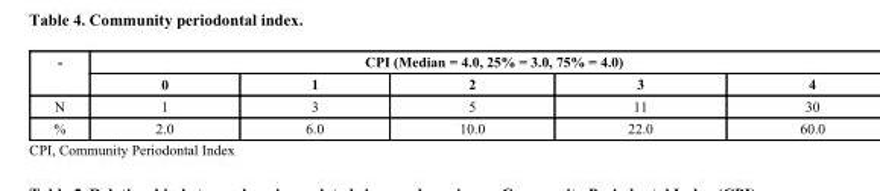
<table><thead><tr><td rowspan="2">-</td><td colspan="5">CPI (Median = 4.0, 25% = 3.0, 75% = 4.0)</td></tr><tr><td>0</td><td>1</td><td>2</td><td>3</td><td>4</td></tr></thead><tbody><tr><td>N</td><td>1</td><td>3</td><td>5</td><td>11</td><td>30</td></tr><tr><td>%</td><td>2.0</td><td>6.0</td><td>10.0</td><td>22.0</td><td>60.0</td></tr></tbody></table>